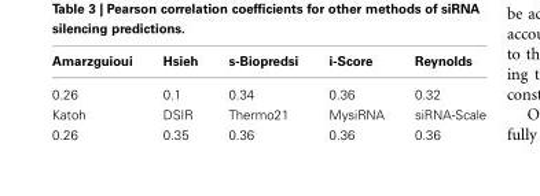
<table><thead><tr><td>Amarzguioui</td><td>Hsieh</td><td>s-Biopredsi</td><td>i-Score</td><td>Reynolds</td></tr></thead><tbody><tr><td>0.26</td><td>0.1</td><td>0.34</td><td>0.36</td><td>0.32</td></tr><tr><td>Katoh</td><td>DSIR</td><td>Thermo21</td><td>MysiRNA</td><td>siRNA-Scale</td></tr><tr><td>0.26</td><td>0.35</td><td>0.36</td><td>0.36</td><td>0.36</td></tr></tbody></table>